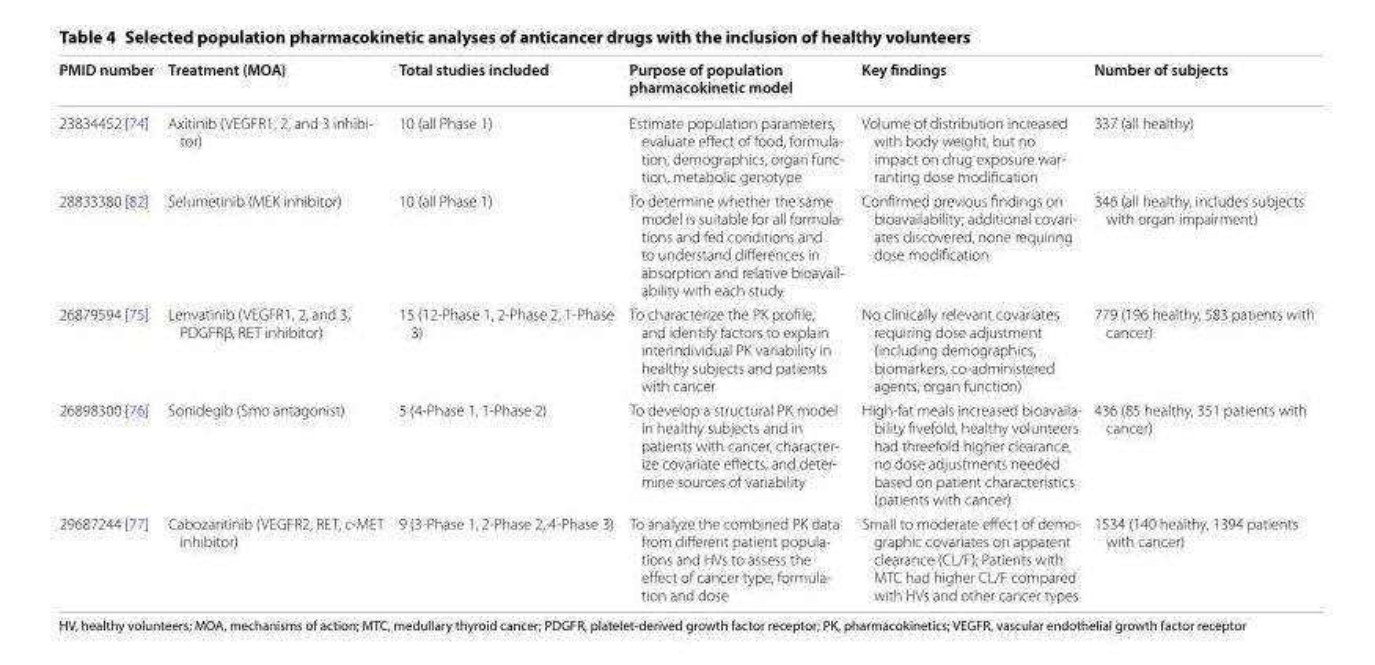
<table><thead><tr><td>PMID number</td><td>Treatment (MOA)</td><td>Total studies included</td><td>Purpose of population pharmacokinetic model</td><td>Key findings</td><td>Number of subjects</td></tr></thead><tbody><tr><td>23834452 [74]</td><td>Axitinib (VEGFR1, 2, and 3 inhibi- tor)</td><td>10 (all Phase 1)</td><td>Estimate population parameters, evaluate effect of food, formula- tion, demographics, organ func- tion, metabolic genotype</td><td>Volume of distribution increased with body weight, but no impact on drug exposure war- ranting dose modification</td><td>337 (all healthy)</td></tr><tr><td>28833380 [82]</td><td>Selumetinib (MEK inhibitor)</td><td>10 (all Phase 1)</td><td>To determine whether the same model is suitable for all formula- tions and fed conditions and to understand differences in absorption and relative bioavail- ability with each study</td><td>Confirmed previous findings on bioavailability; additional covari- ates discovered, none requiring dose modification</td><td>346 (all healthy, includes subjects with organ impairment)</td></tr><tr><td>26879594 [75]</td><td>Lenvatinib (VEGFR1, 2, and 3, PDGFRβ, RET inhibitor)</td><td>15 (12-Phase 1, 2-Phase 2, 1-Phase 3)</td><td>To characterize the PK profile, and identify factors to explain interindividual PK variability in healthy subjects and patients with cancer</td><td>No clinically relevant covariates requiring dose adjustment (including demographics, biomarkers, co-administered agents, organ function)</td><td>779 (196 healthy, 583 patients with cancer)</td></tr><tr><td>26898300 [76]</td><td>Sonidegib (Smo antagonist)</td><td>5 (4-Phase 1, 1-Phase 2)</td><td>To develop a structural PK model in healthy subjects and in patients with cancer, character- ize covariate effects, and deter- mine sources of variability</td><td>High-fat meals increased bioavaila- bility fivefold, healthy volunteers had threefold higher clearance, no dose adjustments needed based on patient characteristics (patients with cancer)</td><td>436 (85 healthy, 351 patients with cancer)</td></tr><tr><td>29687244 [77]</td><td>Cabozantinib (VEGFR2, RET, c-MET inhibitor)</td><td>9 (3-Phase 1, 2-Phase 2, 4-Phase 3)</td><td>To analyze the combined PK data from different patient popula- tions and HVs to assess the effect of cancer type, formula- tion and dose</td><td>Small to moderate effect of demo- graphic covariates on apparent clearance (CL/F); Patients with MTC had higher CL/F compared with HVs and other cancer types</td><td>1534 (140 healthy, 1394 patients with cancer)</td></tr></tbody></table>